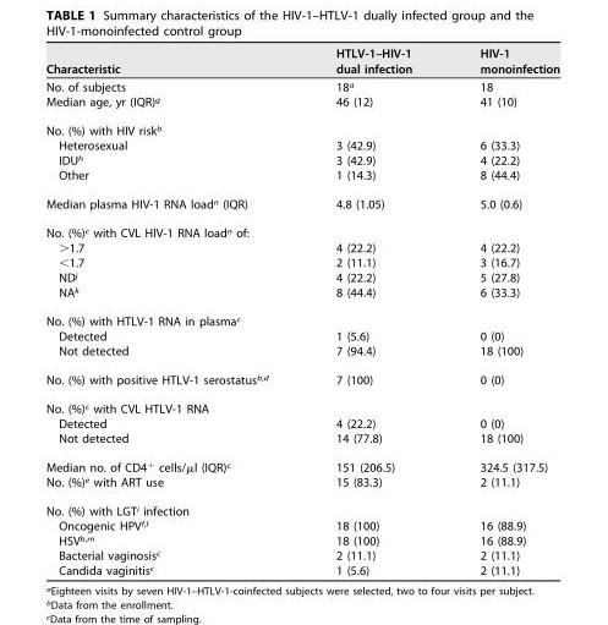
<table><thead><tr><td>Characteristic</td><td>HTLV-1–HIV-1 dual infection</td><td>HIV-1 monoinfection</td></tr></thead><tbody><tr><td>No. of subjects</td><td>18<sup>a</sup></td><td>18</td></tr><tr><td>Median age, yr (IQR)<sup>g</sup></td><td>46 (12)</td><td>41 (10)</td></tr><tr><td colspan="3">No. (%) with HIV risk<sup>b</sup></td></tr><tr><td>Heterosexual</td><td>3 (42.9)</td><td>6 (33.3)</td></tr><tr><td>IDU<sup>h</sup></td><td>3 (42.9)</td><td>4 (22.2)</td></tr><tr><td>Other</td><td>1 (14.3)</td><td>8 (44.4)</td></tr><tr><td>Median plasma HIV-1 RNA load<sup>n</sup> (IQR)</td><td>4.8 (1.05)</td><td>5.0 (0.6)</td></tr><tr><td colspan="3">No. (%)<sup>c</sup> with CVL HIV-1 RNA load<sup>n</sup> of:</td></tr><tr><td>&gt;1.7</td><td>4 (22.2)</td><td>4 (22.2)</td></tr><tr><td>&lt;1.7</td><td>2 (11.1)</td><td>3 (16.7)</td></tr><tr><td>ND<sup>j</sup></td><td>4 (22.2)</td><td>5 (27.8)</td></tr><tr><td>NA<sup>k</sup></td><td>8 (44.4)</td><td>6 (33.3)</td></tr><tr><td colspan="3">No. (%) with HTLV-1 RNA in plasma<sup>c</sup></td></tr><tr><td>Detected</td><td>1 (5.6)</td><td>0 (0)</td></tr><tr><td>Not detected</td><td>7 (94.4)</td><td>18 (100)</td></tr><tr><td>No. (%) with positive HTLV-1 serostatus<sup>b,d</sup></td><td>7 (100)</td><td>0 (0)</td></tr><tr><td colspan="3">No. (%)<sup>c</sup> with CVL HTLV-1 RNA</td></tr><tr><td>Detected</td><td>4 (22.2)</td><td>0 (0)</td></tr><tr><td>Not detected</td><td>14 (77.8)</td><td>18 (100)</td></tr><tr><td>Median no. of CD4<sup>+</sup> cells/µl (IQR)<sup>c</sup></td><td>151 (206.5)</td><td>324.5 (317.5)</td></tr><tr><td>No. (%)<sup>e</sup> with ART use</td><td>15 (83.3)</td><td>2 (11.1)</td></tr><tr><td colspan="3">No. (%) with LGT<sup>i</sup> infection</td></tr><tr><td>Oncogenic HPV<sup>f,l</sup></td><td>18 (100)</td><td>16 (88.9)</td></tr><tr><td>HSV<sup>b,m</sup></td><td>18 (100)</td><td>16 (88.9)</td></tr><tr><td>Bacterial vaginosis<sup>c</sup></td><td>2 (11.1)</td><td>2 (11.1)</td></tr><tr><td>Candida vaginitis<sup>c</sup></td><td>1 (5.6)</td><td>2 (11.1)</td></tr></tbody></table>